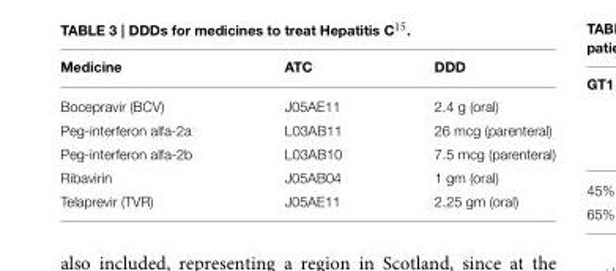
<table><thead><tr><td>Medicine</td><td>ATC</td><td>DDD</td></tr></thead><tbody><tr><td>Bocepravir (BCV)</td><td>J05AE11</td><td>2.4 g (oral)</td></tr><tr><td>Peg-interferon alfa-2a</td><td>L03AB11</td><td>26 mcg (parenteral)</td></tr><tr><td>Peg-interferon alfa-2b</td><td>L03AB10</td><td>7.5 mcg (parenteral)</td></tr><tr><td>Ribavirin</td><td>J05AB04</td><td>1 gm (oral)</td></tr><tr><td>Telaprevir (TVR)</td><td>J05AE11</td><td>2.25 gm (oral)</td></tr></tbody></table>